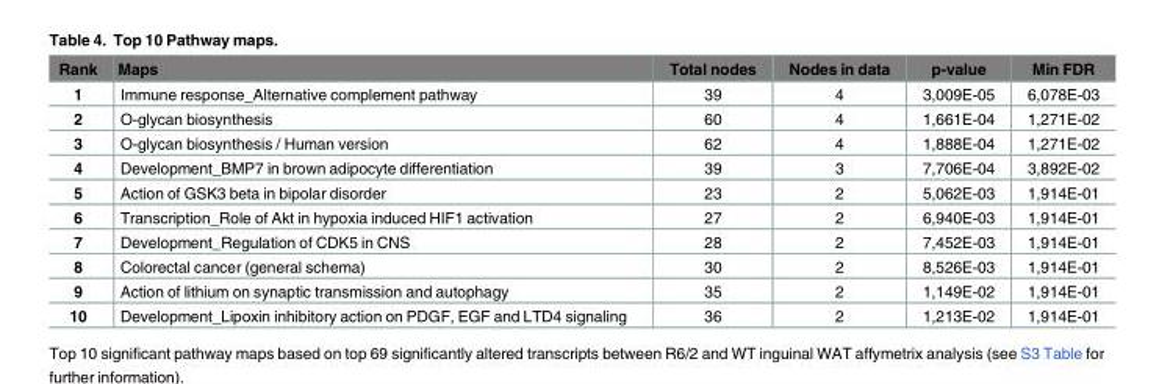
<table><thead><tr><td>Rank</td><td>Maps</td><td>Total nodes</td><td>Nodes in data</td><td>p-value</td><td>Min FDR</td></tr></thead><tbody><tr><td>1</td><td>Immune response_Alternative complement pathway</td><td>39</td><td>4</td><td>3,009E-05</td><td>6,078E-03</td></tr><tr><td>2</td><td>O-glycan biosynthesis</td><td>60</td><td>4</td><td>1,661E-04</td><td>1,271E-02</td></tr><tr><td>3</td><td>O-glycan biosynthesis / Human version</td><td>62</td><td>4</td><td>1,888E-04</td><td>1,271E-02</td></tr><tr><td>4</td><td>Development_BMP7 in brown adipocyte differentiation</td><td>39</td><td>3</td><td>7,706E-04</td><td>3,892E-02</td></tr><tr><td>5</td><td>Action of GSK3 beta in bipolar disorder</td><td>23</td><td>2</td><td>5,062E-03</td><td>1,914E-01</td></tr><tr><td>6</td><td>Transcription_Role of Akt in hypoxia induced HIF1 activation</td><td>27</td><td>2</td><td>6,940E-03</td><td>1,914E-01</td></tr><tr><td>7</td><td>Development_Regulation of CDK5 in CNS</td><td>28</td><td>2</td><td>7,452E-03</td><td>1,914E-01</td></tr><tr><td>8</td><td>Colorectal cancer (general schema)</td><td>30</td><td>2</td><td>8,526E-03</td><td>1,914E-01</td></tr><tr><td>9</td><td>Action of lithium on synaptic transmission and autophagy</td><td>35</td><td>2</td><td>1,149E-02</td><td>1,914E-01</td></tr><tr><td>10</td><td>Development_Lipoxin inhibitory action on PDGF, EGF and LTD4 signaling</td><td>36</td><td>2</td><td>1,213E-02</td><td>1,914E-01</td></tr></tbody></table>